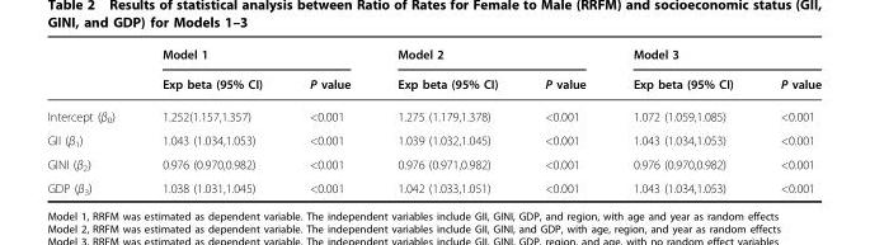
<table><thead><tr><td rowspan="2"></td><td colspan="2">Model 1</td><td colspan="2">Model 2</td><td colspan="2">Model 3</td></tr><tr><td>Exp beta (95% CI)</td><td>P value</td><td>Exp beta (95% CI)</td><td>P value</td><td>Exp beta (95% CI)</td><td>P value</td></tr></thead><tbody><tr><td>Intercept (β<sub>0</sub>)</td><td>1.252(1.157,1.357)</td><td>&lt;0.001</td><td>1.275 (1.179,1.378)</td><td>&lt;0.001</td><td>1.072 (1.059,1.085)</td><td>&lt;0.001</td></tr><tr><td>GII (β<sub>1</sub>)</td><td>1.043 (1.034,1.053)</td><td>&lt;0.001</td><td>1.039 (1.032,1.045)</td><td>&lt;0.001</td><td>1.043 (1.034,1.053)</td><td>&lt;0.001</td></tr><tr><td>GINI (β<sub>2</sub>)</td><td>0.976 (0.970,0.982)</td><td>&lt;0.001</td><td>0.976 (0.971,0.982)</td><td>&lt;0.001</td><td>0.976 (0.970,0.982)</td><td>&lt;0.001</td></tr><tr><td>GDP (β<sub>3</sub>)</td><td>1.038 (1.031,1.045)</td><td>&lt;0.001</td><td>1.042 (1.033,1.051)</td><td>&lt;0.001</td><td>1.043 (1.034,1.053)</td><td>&lt;0.001</td></tr></tbody></table>